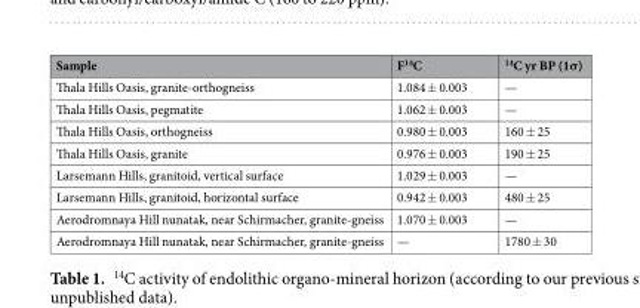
<table><thead><tr><td>Sample</td><td>F<sup>14</sup>C</td><td><sup>14</sup>C yr BP (1σ)</td></tr></thead><tbody><tr><td>Thala Hills Oasis, granite-orthogneiss</td><td>1.084 ± 0.003</td><td>—</td></tr><tr><td>Thala Hills Oasis, pegmatite</td><td>1.062 ± 0.003</td><td>—</td></tr><tr><td>Thala Hills Oasis, orthogneiss</td><td>0.980 ± 0.003</td><td>160 ± 25</td></tr><tr><td>Thala Hills Oasis, granite</td><td>0.976 ± 0.003</td><td>190 ± 25</td></tr><tr><td>Larsemann Hills, granitoid, vertical surface</td><td>1.029 ± 0.003</td><td>—</td></tr><tr><td>Larsemann Hills, granitoid, horizontal surface</td><td>0.942 ± 0.003</td><td>480 ± 25</td></tr><tr><td>Aerodromnaya Hill nunatak, near Schirmacher, granite-gneiss</td><td>1.070 ± 0.003</td><td>—</td></tr><tr><td>Aerodromnaya Hill nunatak, near Schirmacher, granite-gneiss</td><td>—</td><td>1780 ± 30</td></tr></tbody></table>